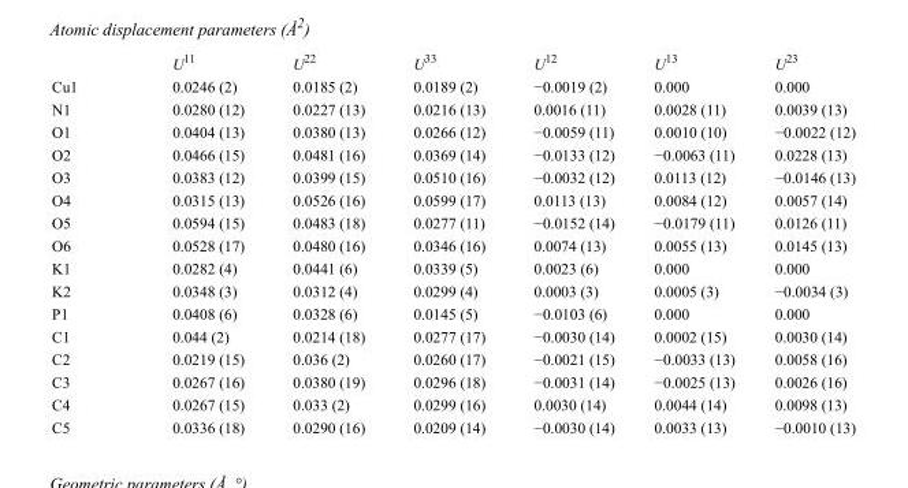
<table><thead><tr><td></td><td>U<sup>11</sup></td><td>U<sup>22</sup></td><td>U<sup>33</sup></td><td>U<sup>12</sup></td><td>U<sup>13</sup></td><td>U<sup>23</sup></td></tr></thead><tbody><tr><td>Cu1</td><td>0.0246 (2)</td><td>0.0185 (2)</td><td>0.0189 (2)</td><td>−0.0019 (2)</td><td>0.000</td><td>0.000</td></tr><tr><td>N1</td><td>0.0280 (12)</td><td>0.0227 (13)</td><td>0.0216 (13)</td><td>0.0016 (11)</td><td>0.0028 (11)</td><td>0.0039 (13)</td></tr><tr><td>O1</td><td>0.0404 (13)</td><td>0.0380 (13)</td><td>0.0266 (12)</td><td>−0.0059 (11)</td><td>0.0010 (10)</td><td>−0.0022 (12)</td></tr><tr><td>O2</td><td>0.0466 (15)</td><td>0.0481 (16)</td><td>0.0369 (14)</td><td>−0.0133 (12)</td><td>−0.0063 (11)</td><td>0.0228 (13)</td></tr><tr><td>O3</td><td>0.0383 (12)</td><td>0.0399 (15)</td><td>0.0510 (16)</td><td>−0.0032 (12)</td><td>0.0113 (12)</td><td>−0.0146 (13)</td></tr><tr><td>O4</td><td>0.0315 (13)</td><td>0.0526 (16)</td><td>0.0599 (17)</td><td>0.0113 (13)</td><td>0.0084 (12)</td><td>0.0057 (14)</td></tr><tr><td>O5</td><td>0.0594 (15)</td><td>0.0483 (18)</td><td>0.0277 (11)</td><td>−0.0152 (14)</td><td>−0.0179 (11)</td><td>0.0126 (11)</td></tr><tr><td>O6</td><td>0.0528 (17)</td><td>0.0480 (16)</td><td>0.0346 (16)</td><td>0.0074 (13)</td><td>0.0055 (13)</td><td>0.0145 (13)</td></tr><tr><td>K1</td><td>0.0282 (4)</td><td>0.0441 (6)</td><td>0.0339 (5)</td><td>0.0023 (6)</td><td>0.000</td><td>0.000</td></tr><tr><td>K2</td><td>0.0348 (3)</td><td>0.0312 (4)</td><td>0.0299 (4)</td><td>0.0003 (3)</td><td>0.0005 (3)</td><td>−0.0034 (3)</td></tr><tr><td>P1</td><td>0.0408 (6)</td><td>0.0328 (6)</td><td>0.0145 (5)</td><td>−0.0103 (6)</td><td>0.000</td><td>0.000</td></tr><tr><td>C1</td><td>0.044 (2)</td><td>0.0214 (18)</td><td>0.0277 (17)</td><td>−0.0030 (14)</td><td>0.0002 (15)</td><td>0.0030 (14)</td></tr><tr><td>C2</td><td>0.0219 (15)</td><td>0.036 (2)</td><td>0.0260 (17)</td><td>−0.0021 (15)</td><td>−0.0033 (13)</td><td>0.0058 (16)</td></tr><tr><td>C3</td><td>0.0267 (16)</td><td>0.0380 (19)</td><td>0.0296 (18)</td><td>−0.0031 (14)</td><td>−0.0025 (13)</td><td>0.0026 (16)</td></tr><tr><td>C4</td><td>0.0267 (15)</td><td>0.033 (2)</td><td>0.0299 (16)</td><td>0.0030 (14)</td><td>0.0044 (14)</td><td>0.0098 (13)</td></tr><tr><td>C5</td><td>0.0336 (18)</td><td>0.0290 (16)</td><td>0.0209 (14)</td><td>−0.0030 (14)</td><td>0.0033 (13)</td><td>−0.0010 (13)</td></tr></tbody></table>